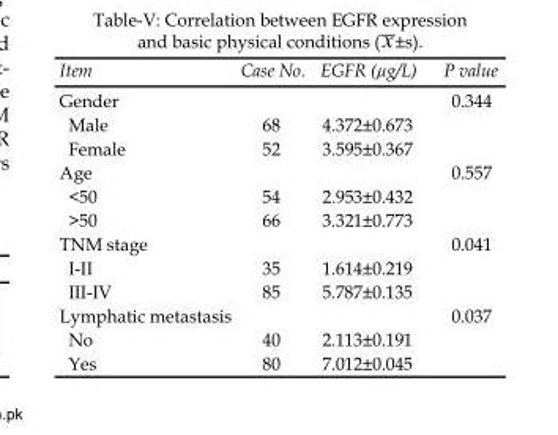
<table><thead><tr><td>Item</td><td>Case No.</td><td>EGFR (µg/L)</td><td>P value</td></tr></thead><tbody><tr><td>Gender</td><td></td><td></td><td>0.344</td></tr><tr><td>Male</td><td>68</td><td>4.372±0.673</td><td></td></tr><tr><td>Female</td><td>52</td><td>3.595±0.367</td><td></td></tr><tr><td>Age</td><td></td><td></td><td>0.557</td></tr><tr><td>&lt;50</td><td>54</td><td>2.953±0.432</td><td></td></tr><tr><td>&gt;50</td><td>66</td><td>3.321±0.773</td><td></td></tr><tr><td>TNM stage</td><td></td><td></td><td>0.041</td></tr><tr><td>I-II</td><td>35</td><td>1.614±0.219</td><td></td></tr><tr><td>III-IV</td><td>85</td><td>5.787±0.135</td><td></td></tr><tr><td>Lymphatic metastasis</td><td></td><td></td><td>0.037</td></tr><tr><td>No</td><td>40</td><td>2.113±0.191</td><td></td></tr><tr><td>Yes</td><td>80</td><td>7.012±0.045</td><td></td></tr></tbody></table>